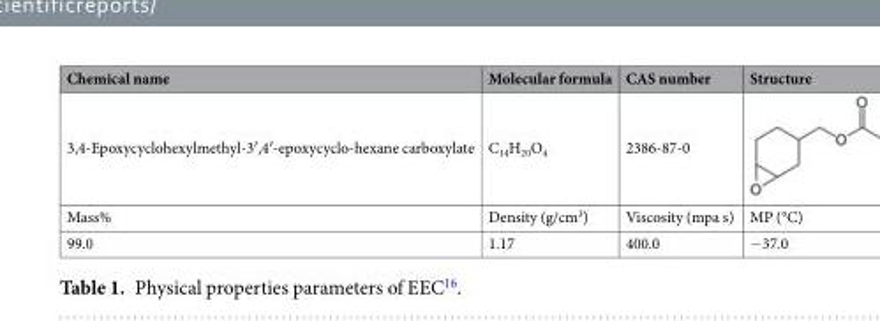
<table><thead><tr><td>Chemical name</td><td>Molecular formula</td><td>CAS number</td><td>Structure</td></tr></thead><tbody><tr><td>3,4-Epoxycyclohexylmethyl-3′,4′-epoxycyclo-hexane carboxylate</td><td>C<sub>14</sub>H<sub>20</sub>O<sub>4</sub></td><td>2386-87-0</td><td></td></tr><tr><td>Mass%</td><td>Density (g/cm<sup>3</sup>)</td><td>Viscosity (mpa s)</td><td>MP (°C)</td></tr><tr><td>99.0</td><td>1.17</td><td>400.0</td><td>−37.0</td></tr></tbody></table>